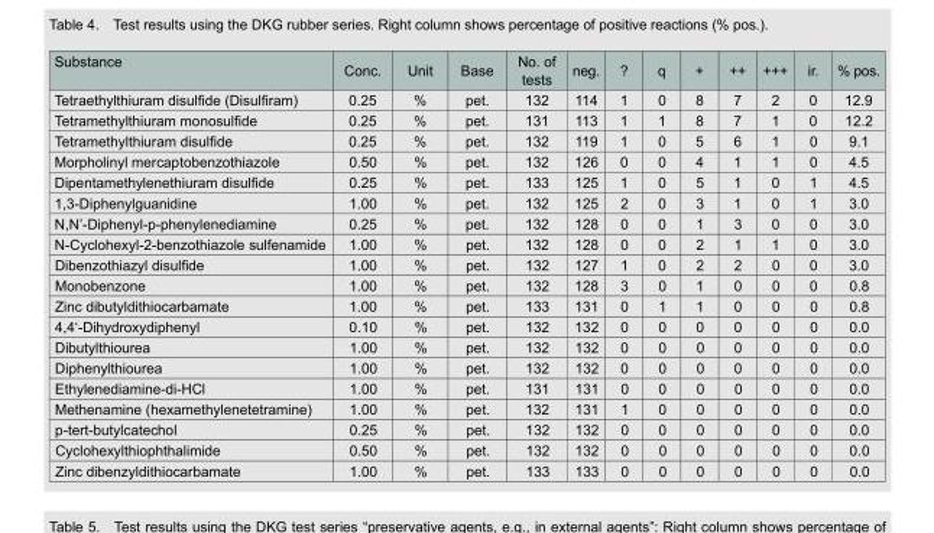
<table><thead><tr><td>Substance</td><td>Conc.</td><td>Unit</td><td>Base</td><td>No. of tests</td><td>neg.</td><td>?</td><td>q</td><td>+</td><td>++</td><td>+++</td><td>ir.</td><td>% pos.</td></tr></thead><tbody><tr><td>Tetraethylthiuram disulfide (Disulfiram)</td><td>0.25</td><td>%</td><td>pet.</td><td>132</td><td>114</td><td>1</td><td>0</td><td>8</td><td>7</td><td>2</td><td>0</td><td>12.9</td></tr><tr><td>Tetramethylthiuram monosulfide</td><td>0.25</td><td>%</td><td>pet.</td><td>131</td><td>113</td><td>1</td><td>1</td><td>8</td><td>7</td><td>1</td><td>0</td><td>12.2</td></tr><tr><td>Tetramethylthiuram disulfide</td><td>0.25</td><td>%</td><td>pet.</td><td>132</td><td>119</td><td>1</td><td>0</td><td>5</td><td>6</td><td>1</td><td>0</td><td>9.1</td></tr><tr><td>Morpholinyl mercaptobenzothiazole</td><td>0.50</td><td>%</td><td>pet.</td><td>132</td><td>126</td><td>0</td><td>0</td><td>4</td><td>1</td><td>1</td><td>0</td><td>4.5</td></tr><tr><td>Dipentamethylenethiuram disulfide</td><td>0.25</td><td>%</td><td>pet.</td><td>133</td><td>125</td><td>1</td><td>0</td><td>5</td><td>1</td><td>0</td><td>1</td><td>4.5</td></tr><tr><td>1,3-Diphenylguanidine</td><td>1.00</td><td>%</td><td>pet.</td><td>132</td><td>125</td><td>2</td><td>0</td><td>3</td><td>1</td><td>0</td><td>1</td><td>3.0</td></tr><tr><td>N,N’-Diphenyl-p-phenylenediamine</td><td>0.25</td><td>%</td><td>pet.</td><td>132</td><td>128</td><td>0</td><td>0</td><td>1</td><td>3</td><td>0</td><td>0</td><td>3.0</td></tr><tr><td>N-Cyclohexyl-2-benzothiazole sulfenamide</td><td>1.00</td><td>%</td><td>pet.</td><td>132</td><td>128</td><td>0</td><td>0</td><td>2</td><td>1</td><td>1</td><td>0</td><td>3.0</td></tr><tr><td>Dibenzothiazyl disulfide</td><td>1.00</td><td>%</td><td>pet.</td><td>132</td><td>127</td><td>1</td><td>0</td><td>2</td><td>2</td><td>0</td><td>0</td><td>3.0</td></tr><tr><td>Monobenzone</td><td>1.00</td><td>%</td><td>pet.</td><td>132</td><td>128</td><td>3</td><td>0</td><td>1</td><td>0</td><td>0</td><td>0</td><td>0.8</td></tr><tr><td>Zinc dibutyldithiocarbamate</td><td>1.00</td><td>%</td><td>pet.</td><td>133</td><td>131</td><td>0</td><td>1</td><td>1</td><td>0</td><td>0</td><td>0</td><td>0.8</td></tr><tr><td>4,4‘-Dihydroxydiphenyl</td><td>0.10</td><td>%</td><td>pet.</td><td>132</td><td>132</td><td>0</td><td>0</td><td>0</td><td>0</td><td>0</td><td>0</td><td>0.0</td></tr><tr><td>Dibutylthiourea</td><td>1.00</td><td>%</td><td>pet.</td><td>132</td><td>132</td><td>0</td><td>0</td><td>0</td><td>0</td><td>0</td><td>0</td><td>0.0</td></tr><tr><td>Diphenylthiourea</td><td>1.00</td><td>%</td><td>pet.</td><td>132</td><td>132</td><td>0</td><td>0</td><td>0</td><td>0</td><td>0</td><td>0</td><td>0.0</td></tr><tr><td>Ethylenediamine-di-HCl</td><td>1.00</td><td>%</td><td>pet.</td><td>131</td><td>131</td><td>0</td><td>0</td><td>0</td><td>0</td><td>0</td><td>0</td><td>0.0</td></tr><tr><td>Methenamine (hexamethylenetetramine)</td><td>1.00</td><td>%</td><td>pet.</td><td>132</td><td>131</td><td>1</td><td>0</td><td>0</td><td>0</td><td>0</td><td>0</td><td>0.0</td></tr><tr><td>p-tert-butylcatechol</td><td>0.25</td><td>%</td><td>pet.</td><td>132</td><td>132</td><td>0</td><td>0</td><td>0</td><td>0</td><td>0</td><td>0</td><td>0.0</td></tr><tr><td>Cyclohexylthiophthalimide</td><td>0.50</td><td>%</td><td>pet.</td><td>132</td><td>132</td><td>0</td><td>0</td><td>0</td><td>0</td><td>0</td><td>0</td><td>0.0</td></tr><tr><td>Zinc dibenzyldithiocarbamate</td><td>1.00</td><td>%</td><td>pet.</td><td>133</td><td>133</td><td>0</td><td>0</td><td>0</td><td>0</td><td>0</td><td>0</td><td>0.0</td></tr></tbody></table>